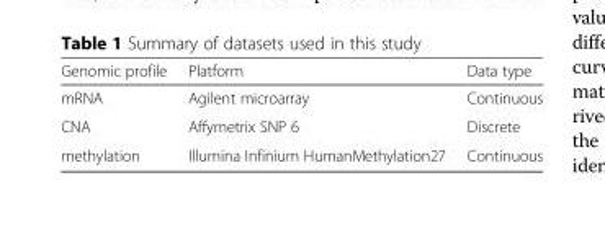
<table><thead><tr><td>Genomic profile</td><td>Platform</td><td>Data type</td></tr></thead><tbody><tr><td>mRNA</td><td>Agilent microarray</td><td>Continuous</td></tr><tr><td>CNA</td><td>Affymetrix SNP 6</td><td>Discrete</td></tr><tr><td>methylation</td><td>Illumina Infinium HumanMethylation27</td><td>Continuous</td></tr></tbody></table>